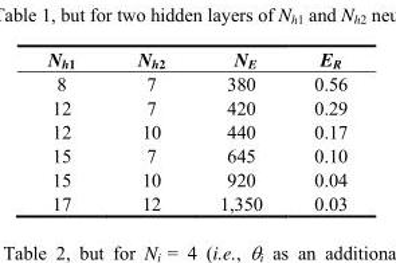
<table><thead><tr><td>N<sub>h1</sub></td><td>N<sub>h2</sub></td><td>N<sub>E</sub></td><td>E<sub>R</sub></td></tr></thead><tbody><tr><td>8</td><td>7</td><td>380</td><td>0.56</td></tr><tr><td>12</td><td>7</td><td>420</td><td>0.29</td></tr><tr><td>12</td><td>10</td><td>440</td><td>0.17</td></tr><tr><td>15</td><td>7</td><td>645</td><td>0.10</td></tr><tr><td>15</td><td>10</td><td>920</td><td>0.04</td></tr><tr><td>17</td><td>12</td><td>1,350</td><td>0.03</td></tr></tbody></table>